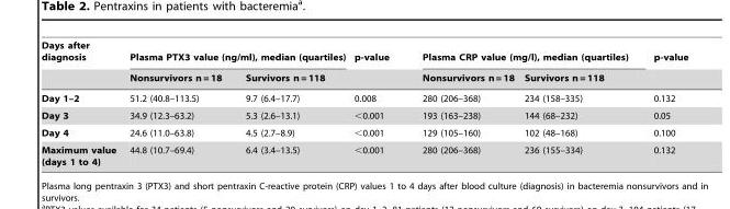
<table><thead><tr><td rowspan="2">Days after diagnosis</td><td colspan="2">Plasma PTX3 value (ng/ml), median (quartiles)</td><td rowspan="2">p-value</td><td colspan="2">Plasma CRP value (mg/l), median (quartiles)</td><td rowspan="2">p-value</td></tr><tr><td>Nonsurvivors n = 18</td><td>Survivors n = 118</td><td>Nonsurvivors n = 18</td><td>Survivors n = 118</td></tr></thead><tbody><tr><td>Day 1–2</td><td>51.2 (40.8–113.5)</td><td>9.7 (6.4–17.7)</td><td>0.008</td><td>280 (206–368)</td><td>234 (158–335)</td><td>0.132</td></tr><tr><td>Day 3</td><td>34.9 (12.3–63.2)</td><td>5.3 (2.6–13.1)</td><td>&lt;0.001</td><td>193 (163–238)</td><td>144 (68–232)</td><td>0.05</td></tr><tr><td>Day 4</td><td>24.6 (11.0–63.8)</td><td>4.5 (2.7–8.9)</td><td>&lt;0.001</td><td>129 (105–160)</td><td>102 (48–168)</td><td>0.100</td></tr><tr><td>Maximum value (days 1 to 4)</td><td>44.8 (10.7–69.4)</td><td>6.4 (3.4–13.5)</td><td>&lt;0.001</td><td>280 (206–368)</td><td>236 (155–334)</td><td>0.132</td></tr></tbody></table>